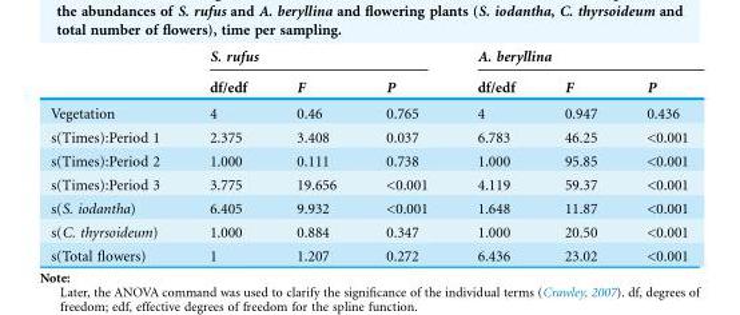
<table><thead><tr><td rowspan="2"></td><td colspan="3">S. rufus</td><td colspan="3">A. beryllina</td></tr><tr><td>df/edf</td><td>F</td><td>P</td><td>df/edf</td><td>F</td><td>P</td></tr></thead><tbody><tr><td>Vegetation</td><td>4</td><td>0.46</td><td>0.765</td><td>4</td><td>0.947</td><td>0.436</td></tr><tr><td>s(Times):Period 1</td><td>2.375</td><td>3.408</td><td>0.037</td><td>6.783</td><td>46.25</td><td>&lt;0.001</td></tr><tr><td>s(Times):Period 2</td><td>1.000</td><td>0.111</td><td>0.738</td><td>1.000</td><td>95.85</td><td>&lt;0.001</td></tr><tr><td>s(Times):Period 3</td><td>3.775</td><td>19.656</td><td>&lt;0.001</td><td>4.119</td><td>59.37</td><td>&lt;0.001</td></tr><tr><td>s(S. iodantha)</td><td>6.405</td><td>9.932</td><td>&lt;0.001</td><td>1.648</td><td>11.87</td><td>&lt;0.001</td></tr><tr><td>s(C. thyrsoideum)</td><td>1.000</td><td>0.884</td><td>0.347</td><td>1.000</td><td>20.50</td><td>&lt;0.001</td></tr><tr><td>s(Total flowers)</td><td>1</td><td>1.207</td><td>0.272</td><td>6.436</td><td>23.02</td><td>&lt;0.001</td></tr></tbody></table>